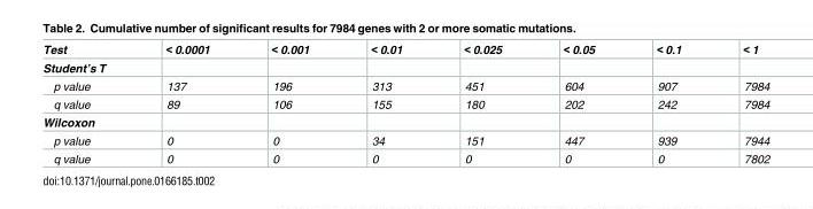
<table><thead><tr><td>Test</td><td>&lt; 0.0001</td><td>&lt; 0.001</td><td>&lt; 0.01</td><td>&lt; 0.025</td><td>&lt; 0.05</td><td>&lt; 0.1</td><td>&lt; 1</td></tr></thead><tbody><tr><td colspan="8">Student’s T</td></tr><tr><td>p value</td><td>137</td><td>196</td><td>313</td><td>451</td><td>604</td><td>907</td><td>7984</td></tr><tr><td>q value</td><td>89</td><td>106</td><td>155</td><td>180</td><td>202</td><td>242</td><td>7984</td></tr><tr><td colspan="8">Wilcoxon</td></tr><tr><td>p value</td><td>0</td><td>0</td><td>34</td><td>151</td><td>447</td><td>939</td><td>7944</td></tr><tr><td>q value</td><td>0</td><td>0</td><td>0</td><td>0</td><td>0</td><td>0</td><td>7802</td></tr></tbody></table>